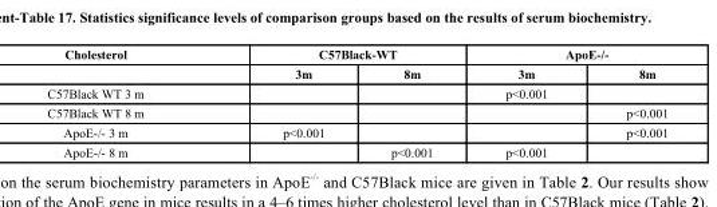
<table><thead><tr><td rowspan="2">Cholesterol</td><td colspan="2">C57Black-WT</td><td colspan="2">ApoE-/-</td></tr><tr><td>3m</td><td>8m</td><td>3m</td><td>8m</td></tr></thead><tbody><tr><td>C57Black WT 3 m</td><td></td><td></td><td>p&lt;0.001</td><td></td></tr><tr><td>C57Black WT 8 m</td><td></td><td></td><td></td><td>p&lt;0.001</td></tr><tr><td>АроЕ-/- 3 m</td><td>p&lt;0.001</td><td></td><td></td><td>p&lt;0.001</td></tr><tr><td>АроЕ-/- 8 m</td><td></td><td>p&lt;0.001</td><td>p&lt;0.001</td><td></td></tr></tbody></table>